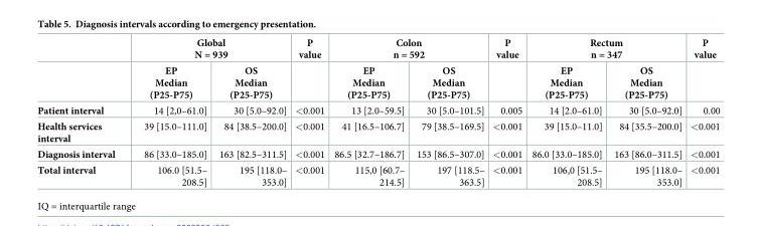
<table><thead><tr><td rowspan="2"></td><td colspan="2">Global N = 939</td><td rowspan="2">P value</td><td colspan="2">Colon n = 592</td><td rowspan="2">P value</td><td colspan="2">Rectum n = 347</td><td rowspan="2">P value</td></tr><tr><td>EP Median (P25-P75)</td><td>OS Median (P25-P75)</td><td>EP Median (P25-P75)</td><td>OS Median (P25-P75)</td><td>EP Median (P25-P75)</td><td>OS Median (P25-P75)</td></tr></thead><tbody><tr><td>Patient interval</td><td>14 [2,0–61.0]</td><td>30 [5.0–92.0]</td><td>&lt;0.001</td><td>13 [2.0–59.5]</td><td>30 [5.0–101.5]</td><td>0.005</td><td>14 [2.0–61.0]</td><td>30 [5.0–92.0]</td><td>0.00</td></tr><tr><td>Health services interval</td><td>39 [15.0–111.0]</td><td>84 [38.5–200.0]</td><td>&lt;0.001</td><td>41 [16.5–106.7]</td><td>79 [38.5–169.5]</td><td>&lt;0.001</td><td>39 [15.0–11.0]</td><td>84 [35.5–200.0]</td><td>&lt;0.001</td></tr><tr><td>Diagnosis interval</td><td>86 [33.0–185.0]</td><td>163 [82.5–311.5]</td><td>&lt;0.001</td><td>86.5 [32.7–186.7]</td><td>153 [86.5–307.0]</td><td>&lt;0.001</td><td>86.0 [33.0–185.0]</td><td>163 [86.0–311.5]</td><td>&lt;0.001</td></tr><tr><td>Total interval</td><td>106.0 [51.5– 208.5]</td><td>195 [118.0– 353.0]</td><td>&lt;0.001</td><td>115,0 [60.7– 214.5]</td><td>197 [118.5– 363.5]</td><td>&lt;0.001</td><td>106,0 [51.5– 208.5]</td><td>195 [118.0– 353.0]</td><td>&lt;0.001</td></tr></tbody></table>